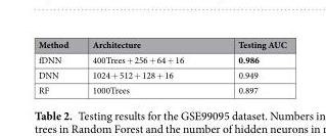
<table><thead><tr><td>Method</td><td>Architecture</td><td>Testing AUC</td></tr></thead><tbody><tr><td>fDNN</td><td>400Trees + 256 + 64 + 16</td><td>0.986</td></tr><tr><td>DNN</td><td>1024 + 512 + 128 + 16</td><td>0.949</td></tr><tr><td>RF</td><td>1000Trees</td><td>0.897</td></tr></tbody></table>